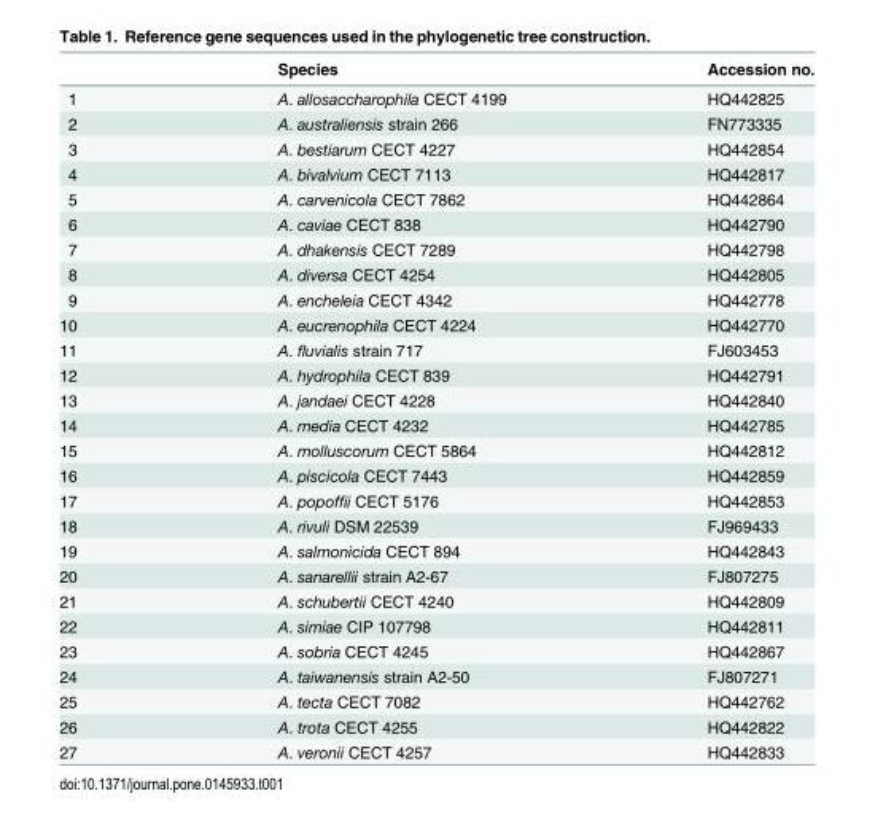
<table><thead><tr><td></td><td>Species</td><td>Accession no.</td></tr></thead><tbody><tr><td>1</td><td>A. allosaccharophila CECT 4199</td><td>HQ442825</td></tr><tr><td>2</td><td>A. australiensis strain 266</td><td>FN773335</td></tr><tr><td>3</td><td>A. bestiarum CECT 4227</td><td>HQ442854</td></tr><tr><td>4</td><td>A. bivalvium CECT 7113</td><td>HQ442817</td></tr><tr><td>5</td><td>A. carvenicola CECT 7862</td><td>HQ442864</td></tr><tr><td>6</td><td>A. caviae CECT 838</td><td>HQ442790</td></tr><tr><td>7</td><td>A. dhakensis CECT 7289</td><td>HQ442798</td></tr><tr><td>8</td><td>A. diversa CECT 4254</td><td>HQ442805</td></tr><tr><td>9</td><td>A. encheleia CECT 4342</td><td>HQ442778</td></tr><tr><td>10</td><td>A. eucrenophila CECT 4224</td><td>HQ442770</td></tr><tr><td>11</td><td>A. fluvialis strain 717</td><td>FJ603453</td></tr><tr><td>12</td><td>A. hydrophila CECT 839</td><td>HQ442791</td></tr><tr><td>13</td><td>A. jandaei CECT 4228</td><td>HQ442840</td></tr><tr><td>14</td><td>A. media CECT 4232</td><td>HQ442785</td></tr><tr><td>15</td><td>A. molluscorum CECT 5864</td><td>HQ442812</td></tr><tr><td>16</td><td>A. piscicola CECT 7443</td><td>HQ442859</td></tr><tr><td>17</td><td>A. popoffii CECT 5176</td><td>HQ442853</td></tr><tr><td>18</td><td>A. rivuli DSM 22539</td><td>FJ969433</td></tr><tr><td>19</td><td>A. salmonicida CECT 894</td><td>HQ442843</td></tr><tr><td>20</td><td>A. sanarellii strain A2-67</td><td>FJ807275</td></tr><tr><td>21</td><td>A. schubertii CECT 4240</td><td>HQ442809</td></tr><tr><td>22</td><td>A. simiae CIP 107798</td><td>HQ442811</td></tr><tr><td>23</td><td>A. sobria CECT 4245</td><td>HQ442867</td></tr><tr><td>24</td><td>A. taiwanensis strain A2-50</td><td>FJ807271</td></tr><tr><td>25</td><td>A. tecta CECT 7082</td><td>HQ442762</td></tr><tr><td>26</td><td>A. trota CECT 4255</td><td>HQ442822</td></tr><tr><td>27</td><td>A. veronii CECT 4257</td><td>HQ442833</td></tr></tbody></table>